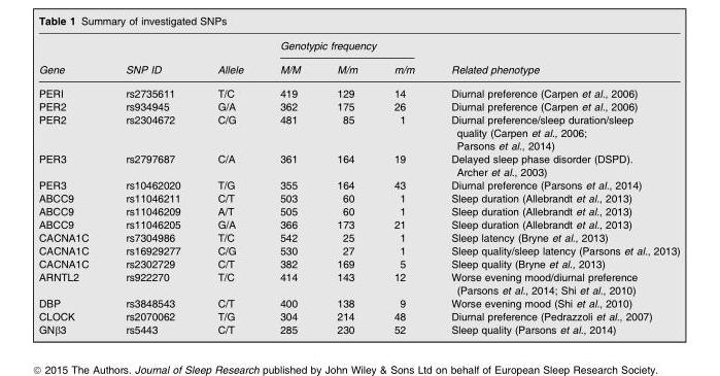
<table><thead><tr><td rowspan="2">Gene</td><td rowspan="2">SNP ID</td><td rowspan="2">Allele</td><td colspan="3">Genotypic frequency</td><td rowspan="2">Related phenotype</td></tr><tr><td>M/M</td><td>M/m</td><td>m/m</td></tr></thead><tbody><tr><td>PERI</td><td>rs2735611</td><td>T/C</td><td>419</td><td>129</td><td>14</td><td>Diurnal preference (Carpen et al., 2006)</td></tr><tr><td>PER2</td><td>rs934945</td><td>G/A</td><td>362</td><td>175</td><td>26</td><td>Diurnal preference (Carpen et al., 2006)</td></tr><tr><td>PER2</td><td>rs2304672</td><td>C/G</td><td>481</td><td>85</td><td>1</td><td>Diurnal preference/sleep duration/sleep quality (Carpen et al., 2006; Parsons et al., 2014)</td></tr><tr><td>PER3</td><td>rs2797687</td><td>C/A</td><td>361</td><td>164</td><td>19</td><td>Delayed sleep phase disorder (DSPD). Archer et al., 2003)</td></tr><tr><td>PER3</td><td>rs10462020</td><td>T/G</td><td>355</td><td>164</td><td>43</td><td>Diurnal preference (Parsons et al., 2014)</td></tr><tr><td>ABCC9</td><td>rs11046211</td><td>C/T</td><td>503</td><td>60</td><td>1</td><td>Sleep duration (Allebrandt et al., 2013)</td></tr><tr><td>ABCC9</td><td>rs11046209</td><td>A/T</td><td>505</td><td>60</td><td>1</td><td>Sleep duration (Allebrandt et al., 2013)</td></tr><tr><td>ABCC9</td><td>rs11046205</td><td>G/A</td><td>366</td><td>173</td><td>21</td><td>Sleep duration (Allebrandt et al., 2013)</td></tr><tr><td>CACNA1C</td><td>rs7304986</td><td>T/C</td><td>542</td><td>25</td><td>1</td><td>Sleep latency (Bryne et al., 2013)</td></tr><tr><td>CACNA1C</td><td>rs16929277</td><td>C/G</td><td>530</td><td>27</td><td>1</td><td>Sleep quality/sleep latency (Parsons et al., 2013)</td></tr><tr><td>CACNA1C</td><td>rs2302729</td><td>C/T</td><td>382</td><td>169</td><td>5</td><td>Sleep quality (Bryne et al., 2013)</td></tr><tr><td>ARNTL2</td><td>rs922270</td><td>T/C</td><td>414</td><td>143</td><td>12</td><td>Worse evening mood/diurnal preference (Parsons et al., 2014; Shi et al., 2010)</td></tr><tr><td>DBP</td><td>rs3848543</td><td>C/T</td><td>400</td><td>138</td><td>9</td><td>Worse evening mood (Shi et al., 2010)</td></tr><tr><td>CLOCK</td><td>rs2070062</td><td>T/G</td><td>304</td><td>214</td><td>48</td><td>Diurnal preference (Pedrazzoli et al., 2007)</td></tr><tr><td>GNβ3</td><td>rs5443</td><td>C/T</td><td>285</td><td>230</td><td>52</td><td>Sleep quality (Parsons et al., 2014)</td></tr></tbody></table>